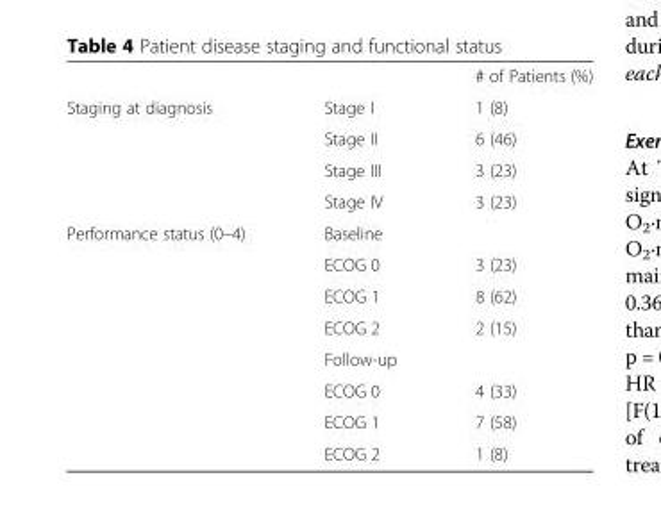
<table><thead><tr><td></td><td></td><td># of Patients (%)</td></tr></thead><tbody><tr><td rowspan="4">Staging at diagnosis</td><td>Stage I</td><td>1 (8)</td></tr><tr><td>Stage II</td><td>6 (46)</td></tr><tr><td>Stage III</td><td>3 (23)</td></tr><tr><td>Stage IV</td><td>3 (23)</td></tr><tr><td rowspan="8">Performance status (0–4)</td><td>Baseline</td><td></td></tr><tr><td>ECOG 0</td><td>3 (23)</td></tr><tr><td>ECOG 1</td><td>8 (62)</td></tr><tr><td>ECOG 2</td><td>2 (15)</td></tr><tr><td>Follow-up</td><td></td></tr><tr><td>ECOG 0</td><td>4 (33)</td></tr><tr><td>ECOG 1</td><td>7 (58)</td></tr><tr><td>ECOG 2</td><td>1 (8)</td></tr></tbody></table>